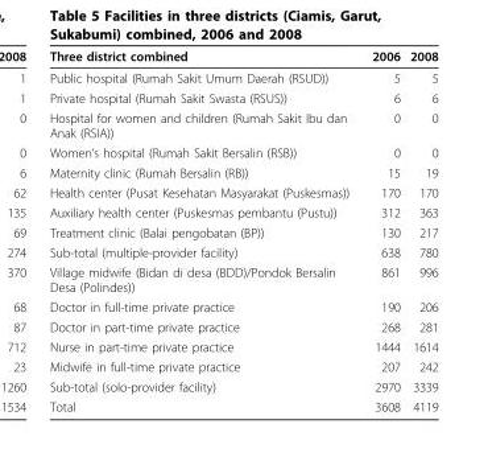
<table><thead><tr><td>Three district combined</td><td>2006</td><td>2008</td></tr></thead><tbody><tr><td>Public hospital (Rumah Sakit Umum Daerah (RSUD))</td><td>5</td><td>5</td></tr><tr><td>Private hospital (Rumah Sakit Swasta (RSUS))</td><td>6</td><td>6</td></tr><tr><td>Hospital for women and children (Rumah Sakit Ibu dan Anak (RSIA))</td><td>0</td><td>0</td></tr><tr><td>Women’s hospital (Rumah Sakit Bersalin (RSB))</td><td>0</td><td>0</td></tr><tr><td>Maternity clinic (Rumah Bersalin (RB))</td><td>15</td><td>19</td></tr><tr><td>Health center (Pusat Kesehatan Masyarakat (Puskesmas))</td><td>170</td><td>170</td></tr><tr><td>Auxiliary health center (Puskesmas pembantu (Pustu))</td><td>312</td><td>363</td></tr><tr><td>Treatment clinic (Balai pengobatan (BP))</td><td>130</td><td>217</td></tr><tr><td>Sub-total (multiple-provider facility)</td><td>638</td><td>780</td></tr><tr><td>Village midwife (Bidan di desa (BDD)/Pondok Bersalin Desa (Polindes))</td><td>861</td><td>996</td></tr><tr><td>Doctor in full-time private practice</td><td>190</td><td>206</td></tr><tr><td>Doctor in part-time private practice</td><td>268</td><td>281</td></tr><tr><td>Nurse in part-time private practice</td><td>1444</td><td>1614</td></tr><tr><td>Midwife in full-time private practice</td><td>207</td><td>242</td></tr><tr><td>Sub-total (solo-provider facility)</td><td>2970</td><td>3339</td></tr><tr><td>Total</td><td>3608</td><td>4119</td></tr></tbody></table>